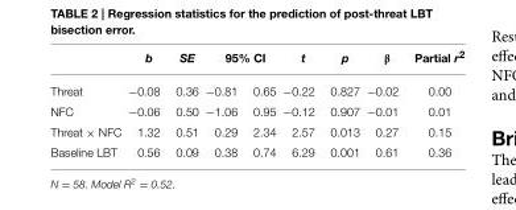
<table><thead><tr><td rowspan="2">Threat</td><td rowspan="2">b −0.08</td><td rowspan="2">SE 0.36</td><td colspan="2">95% CI</td><td rowspan="2">t −0.22</td><td rowspan="2">p 0.827</td><td rowspan="2">β −0.02</td><td rowspan="2">Partial r<sup>2</sup> 0.00</td></tr><tr><td>−0.81</td><td>0.65</td></tr></thead><tbody><tr><td>NFC</td><td>−0.06</td><td>0.50</td><td>−1.06</td><td>0.95</td><td>−0.12</td><td>0.907</td><td>−0.01</td><td>0.01</td></tr><tr><td>Threat × NFC</td><td>1.32</td><td>0.51</td><td>0.29</td><td>2.34</td><td>2.57</td><td>0.013</td><td>0.27</td><td>0.15</td></tr><tr><td>Baseline LBT</td><td>0.56</td><td>0.09</td><td>0.38</td><td>0.74</td><td>6.29</td><td>0.001</td><td>0.61</td><td>0.36</td></tr></tbody></table>